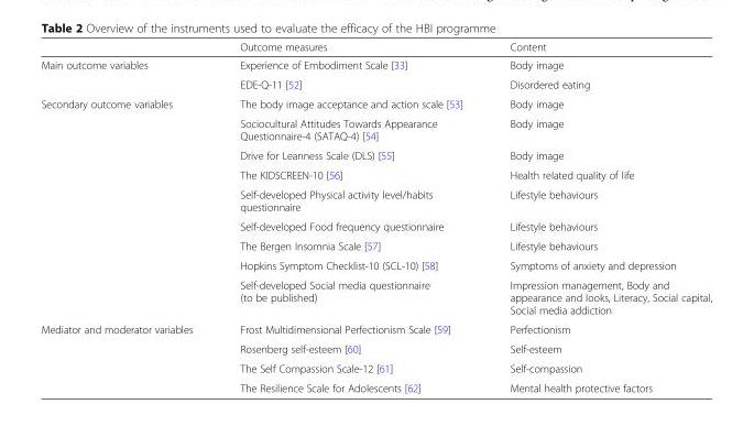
<table><thead><tr><td></td><td>Outcome measures</td><td>Content</td></tr></thead><tbody><tr><td rowspan="2">Main outcome variables</td><td>Experience of Embodiment Scale [33]</td><td>Body image</td></tr><tr><td>EDE-Q-11 [52]</td><td>Disordered eating</td></tr><tr><td rowspan="9">Secondary outcome variables</td><td>The body image acceptance and action scale [53]</td><td>Body image</td></tr><tr><td>Sociocultural Attitudes Towards Appearance Questionnaire-4 (SATAQ-4) [54]</td><td>Body image</td></tr><tr><td>Drive for Leanness Scale (DLS) [55]</td><td>Body image</td></tr><tr><td>The KIDSCREEN-10 [56]</td><td>Health related quality of life</td></tr><tr><td>Self-developed Physical activity level/habits questionnaire</td><td>Lifestyle behaviours</td></tr><tr><td>Self-developed Food frequency questionnaire</td><td>Lifestyle behaviours</td></tr><tr><td>The Bergen Insomnia Scale [57]</td><td>Lifestyle behaviours</td></tr><tr><td>Hopkins Symptom Checklist-10 (SCL-10) [58]</td><td>Symptoms of anxiety and depression</td></tr><tr><td>Self-developed Social media questionnaire (to be published)</td><td>Impression management, Body and appearance and looks, Literacy, Social capital, Social media addiction</td></tr><tr><td rowspan="4">Mediator and moderator variables</td><td>Frost Multidimensional Perfectionism Scale [59]</td><td>Perfectionism</td></tr><tr><td>Rosenberg self-esteem [60]</td><td>Self-esteem</td></tr><tr><td>The Self Compassion Scale-12 [61]</td><td>Self-compassion</td></tr><tr><td>The Resilience Scale for Adolescents [62]</td><td>Mental health protective factors</td></tr></tbody></table>